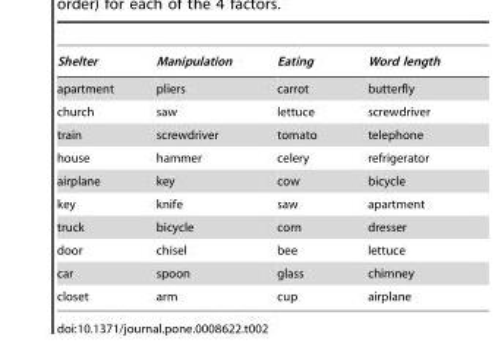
<table><thead><tr><td>Shelter</td><td>Manipulation</td><td>Eating</td><td>Word length</td></tr></thead><tbody><tr><td>apartment</td><td>pliers</td><td>carrot</td><td>butterfly</td></tr><tr><td>church</td><td>saw</td><td>lettuce</td><td>screwdriver</td></tr><tr><td>train</td><td>screwdriver</td><td>tomato</td><td>telephone</td></tr><tr><td>house</td><td>hammer</td><td>celery</td><td>refrigerator</td></tr><tr><td>airplane</td><td>key</td><td>cow</td><td>bicycle</td></tr><tr><td>key</td><td>knife</td><td>saw</td><td>apartment</td></tr><tr><td>truck</td><td>bicycle</td><td>corn</td><td>dresser</td></tr><tr><td>door</td><td>chisel</td><td>bee</td><td>lettuce</td></tr><tr><td>car</td><td>spoon</td><td>glass</td><td>chimney</td></tr><tr><td>closet</td><td>arm</td><td>cup</td><td>airplane</td></tr></tbody></table>